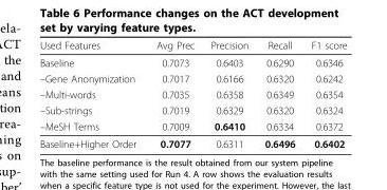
<table><thead><tr><td>Used Features</td><td>Avg Prec</td><td>Precision</td><td>Recall</td><td>F1 score</td></tr></thead><tbody><tr><td>Baseline</td><td>0.7073</td><td>0.6403</td><td>0.6290</td><td>0.6346</td></tr><tr><td>–Gene Anonymization</td><td>0.7017</td><td>0.6166</td><td>0.6320</td><td>0.6242</td></tr><tr><td>–Multi-words</td><td>0.7035</td><td>0.6358</td><td>0.6349</td><td>0.6354</td></tr><tr><td>–Sub-strings</td><td>0.7019</td><td>0.6329</td><td>0.6320</td><td>0.6324</td></tr><tr><td>–MeSH Terms</td><td>0.7009</td><td>0.6410</td><td>0.6334</td><td>0.6372</td></tr><tr><td>Baseline+Higher Order</td><td>0.7077</td><td>0.6311</td><td>0.6496</td><td>0.6402</td></tr></tbody></table>